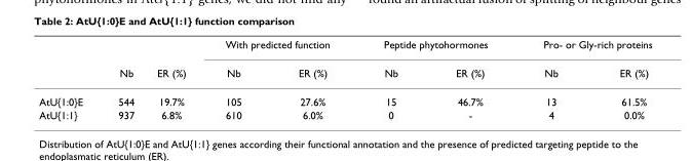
<table><thead><tr><td rowspan="2"></td><td rowspan="2">Nb</td><td rowspan="2">ER (%)</td><td colspan="2">With predicted function</td><td colspan="2">Peptide phytohormones</td><td colspan="2">Pro- or Gly-rich proteins</td></tr><tr><td>Nb</td><td>ER (%)</td><td>Nb</td><td>ER (%)</td><td>Nb</td><td>ER (%)</td></tr></thead><tbody><tr><td>AtU{1:0}E</td><td>544</td><td>19.7%</td><td>105</td><td>27.6%</td><td>15</td><td>46.7%</td><td>13</td><td>61.5%</td></tr><tr><td>AtU{1:1}</td><td>937</td><td>6.8%</td><td>610</td><td>6.0%</td><td>0</td><td>-</td><td>4</td><td>0.0%</td></tr></tbody></table>